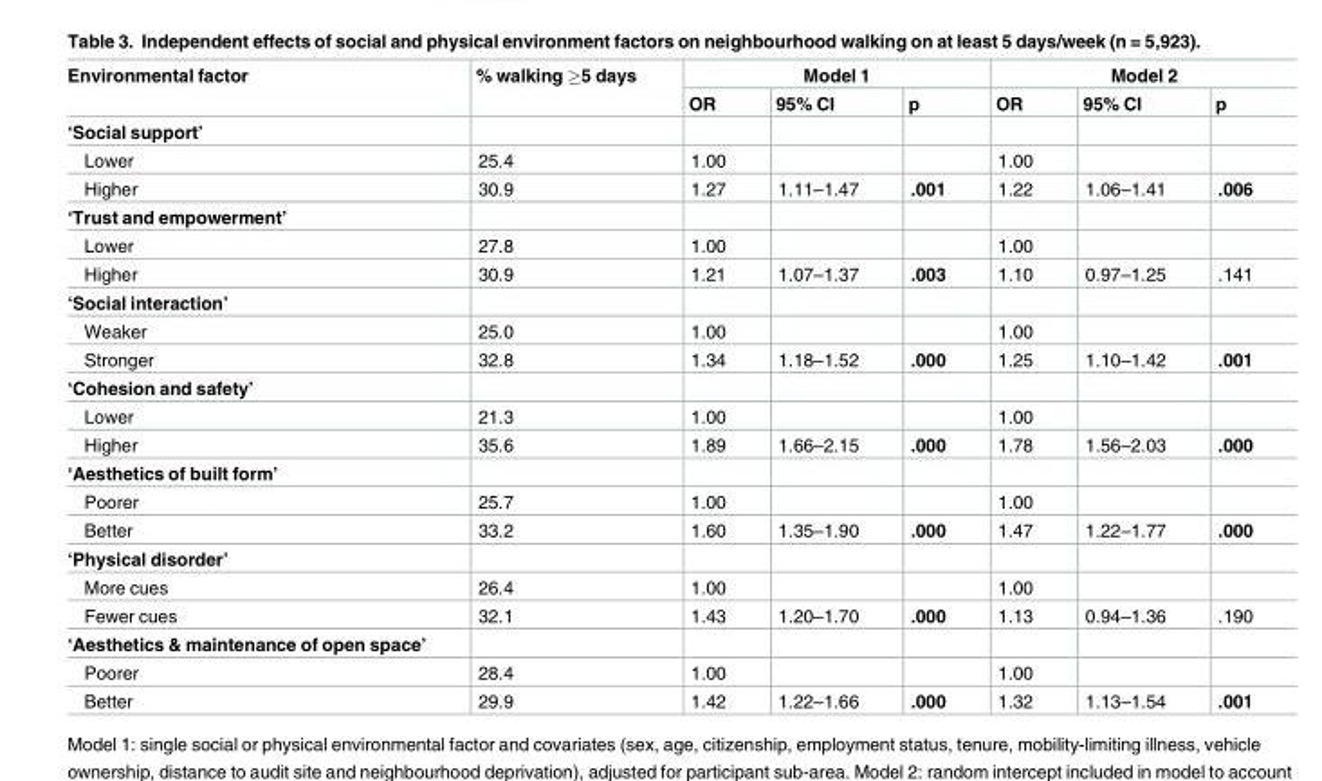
<table><thead><tr><td rowspan="2">Environmental factor</td><td rowspan="2">% walking ≥5 days</td><td colspan="3">Model 1</td><td colspan="3">Model 2</td></tr><tr><td>OR</td><td>95% CI</td><td>p</td><td>OR</td><td>95% CI</td><td>p</td></tr></thead><tbody><tr><td colspan="8">‘Social support’</td></tr><tr><td>Lower</td><td>25.4</td><td>1.00</td><td></td><td></td><td>1.00</td><td></td><td></td></tr><tr><td>Higher</td><td>30.9</td><td>1.27</td><td>1.11–1.47</td><td>.001</td><td>1.22</td><td>1.06–1.41</td><td>.006</td></tr><tr><td colspan="8">‘Trust and empowerment’</td></tr><tr><td>Lower</td><td>27.8</td><td>1.00</td><td></td><td></td><td>1.00</td><td></td><td></td></tr><tr><td>Higher</td><td>30.9</td><td>1.21</td><td>1.07–1.37</td><td>.003</td><td>1.10</td><td>0.97–1.25</td><td>.141</td></tr><tr><td colspan="8">‘Social interaction’</td></tr><tr><td>Weaker</td><td>25.0</td><td>1.00</td><td></td><td></td><td>1.00</td><td></td><td></td></tr><tr><td>Stronger</td><td>32.8</td><td>1.34</td><td>1.18–1.52</td><td>.000</td><td>1.25</td><td>1.10–1.42</td><td>.001</td></tr><tr><td colspan="8">‘Cohesion and safety’</td></tr><tr><td>Lower</td><td>21.3</td><td>1.00</td><td></td><td></td><td>1.00</td><td></td><td></td></tr><tr><td>Higher</td><td>35.6</td><td>1.89</td><td>1.66–2.15</td><td>.000</td><td>1.78</td><td>1.56–2.03</td><td>.000</td></tr><tr><td colspan="8">‘Aesthetics of built form’</td></tr><tr><td>Poorer</td><td>25.7</td><td>1.00</td><td></td><td></td><td>1.00</td><td></td><td></td></tr><tr><td>Better</td><td>33.2</td><td>1.60</td><td>1.35–1.90</td><td>.000</td><td>1.47</td><td>1.22–1.77</td><td>.000</td></tr><tr><td colspan="8">‘Physical disorder’</td></tr><tr><td>More cues</td><td>26.4</td><td>1.00</td><td></td><td></td><td>1.00</td><td></td><td></td></tr><tr><td>Fewer cues</td><td>32.1</td><td>1.43</td><td>1.20–1.70</td><td>.000</td><td>1.13</td><td>0.94–1.36</td><td>.190</td></tr><tr><td colspan="8">‘Aesthetics &amp; maintenance of open space’</td></tr><tr><td>Poorer</td><td>28.4</td><td>1.00</td><td></td><td></td><td>1.00</td><td></td><td></td></tr><tr><td>Better</td><td>29.9</td><td>1.42</td><td>1.22–1.66</td><td>.000</td><td>1.32</td><td>1.13–1.54</td><td>.001</td></tr></tbody></table>